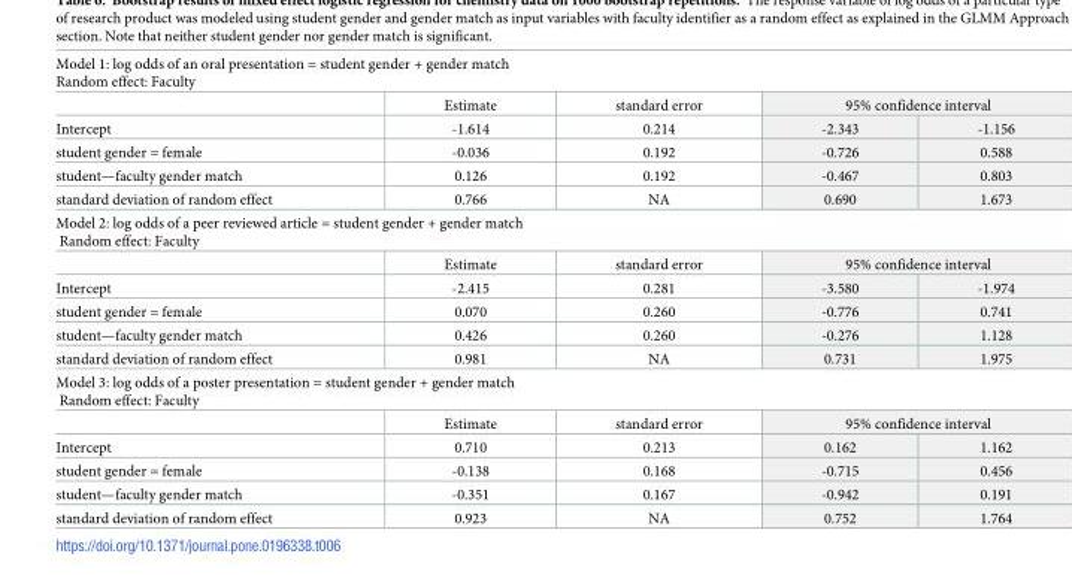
<table><tbody><tr><td colspan="5">Model 1: log odds of an oral presentation = student gender + gender match Random effect: Faculty</td></tr><tr><td></td><td>Estimate</td><td>standard error</td><td colspan="2">95% confidence interval</td></tr><tr><td>Intercept</td><td>-1.614</td><td>0.214</td><td>-2.343</td><td>-1.156</td></tr><tr><td>student gender = female</td><td>-0.036</td><td>0.192</td><td>-0.726</td><td>0.588</td></tr><tr><td>student—faculty gender match</td><td>0.126</td><td>0.192</td><td>-0.467</td><td>0.803</td></tr><tr><td>standard deviation of random effect</td><td>0.766</td><td>NA</td><td>0.690</td><td>1.673</td></tr><tr><td colspan="5">Model 2: log odds of a peer reviewed article = student gender + gender match Random effect: Faculty</td></tr><tr><td></td><td>Estimate</td><td>standard error</td><td colspan="2">95% confidence interval</td></tr><tr><td>Intercept</td><td>-2.415</td><td>0.281</td><td>-3.580</td><td>-1.974</td></tr><tr><td>student gender = female</td><td>0.070</td><td>0.260</td><td>-0.776</td><td>0.741</td></tr><tr><td>student—faculty gender match</td><td>0.426</td><td>0.260</td><td>-0.276</td><td>1.128</td></tr><tr><td>standard deviation of random effect</td><td>0.981</td><td>NA</td><td>0.731</td><td>1.975</td></tr><tr><td colspan="5">Model 3: log odds of a poster presentation = student gender + gender match Random effect: Faculty</td></tr><tr><td></td><td>Estimate</td><td>standard error</td><td colspan="2">95% confidence interval</td></tr><tr><td>Intercept</td><td>0.710</td><td>0.213</td><td>0.162</td><td>1.162</td></tr><tr><td>student gender = female</td><td>-0.138</td><td>0.168</td><td>-0.715</td><td>0.456</td></tr><tr><td>student—faculty gender match</td><td>-0.351</td><td>0.167</td><td>-0.942</td><td>0.191</td></tr><tr><td>standard deviation of random effect</td><td>0.923</td><td>NA</td><td>0.752</td><td>1.764</td></tr></tbody></table>